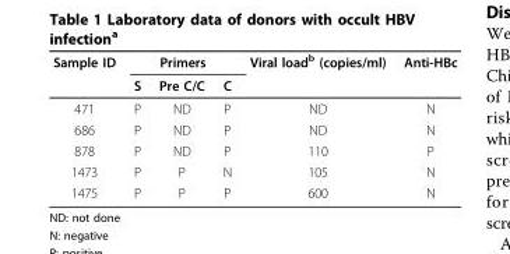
<table><thead><tr><td rowspan="2">Sample ID</td><td colspan="3">Primers</td><td rowspan="2">Viral load<sup>b</sup> (copies/ml)</td><td rowspan="2">Anti-HBc</td></tr><tr><td>S</td><td>Pre C/C</td><td>C</td></tr></thead><tbody><tr><td>471</td><td>P</td><td>ND</td><td>P</td><td>ND</td><td>N</td></tr><tr><td>686</td><td>P</td><td>ND</td><td>P</td><td>ND</td><td>N</td></tr><tr><td>878</td><td>P</td><td>ND</td><td>P</td><td>110</td><td>P</td></tr><tr><td>1473</td><td>P</td><td>P</td><td>N</td><td>105</td><td>N</td></tr><tr><td>1475</td><td>P</td><td>P</td><td>P</td><td>600</td><td>N</td></tr></tbody></table>